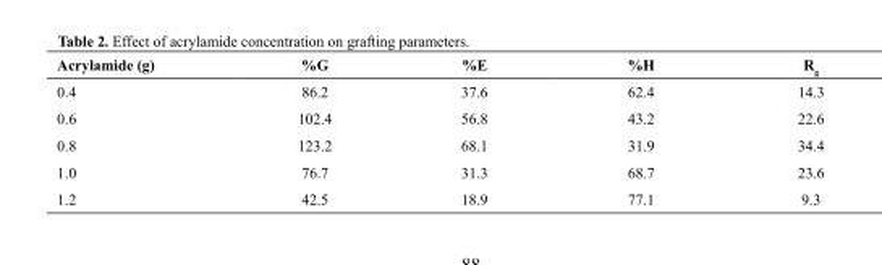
<table><thead><tr><td>Acrylamide (g)</td><td>%G</td><td>%E</td><td>%H</td><td>R<sub>g</sub></td></tr></thead><tbody><tr><td>0.4</td><td>86.2</td><td>37.6</td><td>62.4</td><td>14.3</td></tr><tr><td>0.6</td><td>102.4</td><td>56.8</td><td>43.2</td><td>22.6</td></tr><tr><td>0.8</td><td>123.2</td><td>68.1</td><td>31.9</td><td>34.4</td></tr><tr><td>1.0</td><td>76.7</td><td>31.3</td><td>68.7</td><td>23.6</td></tr><tr><td>1.2</td><td>42.5</td><td>18.9</td><td>77.1</td><td>9.3</td></tr></tbody></table>